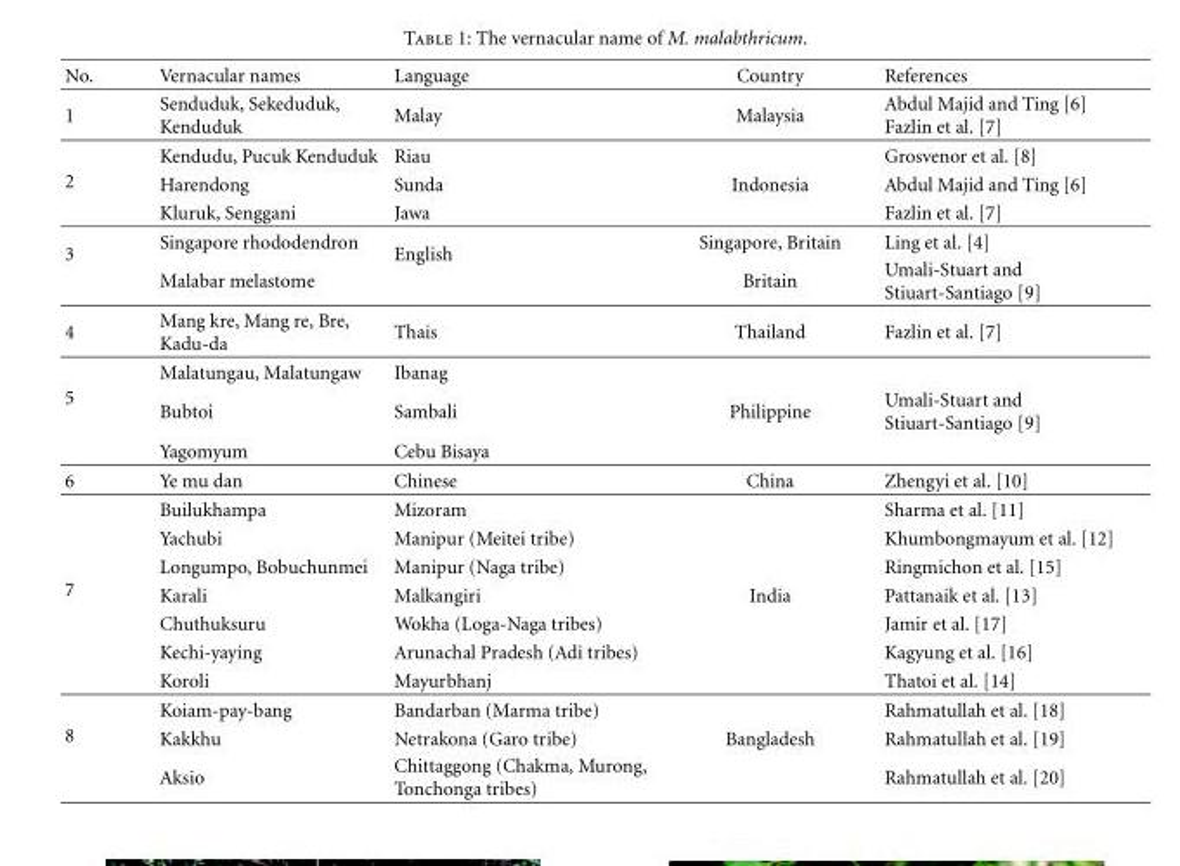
<table><thead><tr><td>No.</td><td>Vernacular names</td><td>Language</td><td>Country</td><td>References</td></tr></thead><tbody><tr><td>1</td><td>Senduduk, Sekeduduk, Kenduduk</td><td>Malay</td><td>Malaysia</td><td>Abdul Majid and Ting [6] Fazlin et al. [7]</td></tr><tr><td rowspan="3">2</td><td>Kendudu, Pucuk Kenduduk</td><td>Riau</td><td></td><td>Grosvenor et al. [8]</td></tr><tr><td>Harendong</td><td>Sunda</td><td>Indonesia</td><td>Abdul Majid and Ting [6]</td></tr><tr><td>Kluruk, Senggani</td><td>Jawa</td><td></td><td>Fazlin et al. [7]</td></tr><tr><td rowspan="2">3</td><td>Singapore rhododendron</td><td rowspan="2">English</td><td>Singapore, Britain</td><td>Ling et al. [4]</td></tr><tr><td>Malabar melastome</td><td>Britain</td><td>Umali-Stuart and Stiuart-Santiago [9]</td></tr><tr><td>4</td><td>Mang kre, Mang re, Bre, Kadu-da</td><td>Thais</td><td>Thailand</td><td>Fazlin et al. [7]</td></tr><tr><td rowspan="3">5</td><td>Malatungau, Malatungaw</td><td>Ibanag</td><td></td><td></td></tr><tr><td>Bubtoi</td><td>Sambali</td><td>Philippine</td><td>Umali-Stuart and Stiuart-Santiago [9]</td></tr><tr><td>Yagomyum</td><td>Cebu Bisaya</td><td></td><td></td></tr><tr><td>6</td><td>Ye mu dan</td><td>Chinese</td><td>China</td><td>Zhengyi et al. [10]</td></tr><tr><td rowspan="7">7</td><td>Builukhampa</td><td>Mizoram</td><td></td><td>Sharma et al. [11]</td></tr><tr><td>Yachubi</td><td>Manipur (Meitei tribe)</td><td></td><td>Khumbongmayum et al. [12]</td></tr><tr><td>Longumpo, Bobuchunmei</td><td>Manipur (Naga tribe)</td><td></td><td>Ringmichon et al. [15]</td></tr><tr><td>Karali</td><td>Malkangiri</td><td>India</td><td>Pattanaik et al. [13]</td></tr><tr><td>Chuthuksuru</td><td>Wokha (Loga-Naga tribes)</td><td></td><td>Jamir et al. [17]</td></tr><tr><td>Kechi-yaying</td><td>Arunachal Pradesh (Adi tribes)</td><td></td><td>Kagyung et al. [16]</td></tr><tr><td>Koroli</td><td>Mayurbhanj</td><td></td><td>Thatoi et al. [14]</td></tr><tr><td rowspan="3">8</td><td>Koiam-pay-bang</td><td>Bandarban (Marma tribe)</td><td></td><td>Rahmatullah et al. [18]</td></tr><tr><td>Kakkhu</td><td>Netrakona (Garo tribe)</td><td>Bangladesh</td><td>Rahmatullah et al. [19]</td></tr><tr><td>Aksio</td><td>Chittaggong (Chakma, Murong, Tonchonga tribes)</td><td></td><td>Rahmatullah et al. [20]</td></tr></tbody></table>